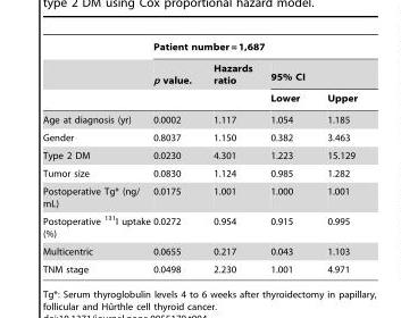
<table><thead><tr><td rowspan="3"></td><td colspan="4">Patient number = 1,687</td></tr><tr><td rowspan="2">p value.</td><td rowspan="2">Hazards ratio</td><td colspan="2">95% CI</td></tr><tr><td>Lower</td><td>Upper</td></tr></thead><tbody><tr><td>Age at diagnosis (yr)</td><td>0.0002</td><td>1.117</td><td>1.054</td><td>1.185</td></tr><tr><td>Gender</td><td>0.8037</td><td>1.150</td><td>0.382</td><td>3.463</td></tr><tr><td>Type 2 DM</td><td>0.0230</td><td>4.301</td><td>1.223</td><td>15.129</td></tr><tr><td>Tumor size</td><td>0.0830</td><td>1.124</td><td>0.985</td><td>1.282</td></tr><tr><td>Postoperative Tg* (ng/ mL)</td><td>0.0175</td><td>1.001</td><td>1.000</td><td>1.001</td></tr><tr><td>Postoperative <sup>131</sup>I uptake (%)</td><td>0.0272</td><td>0.954</td><td>0.915</td><td>0.995</td></tr><tr><td>Multicentric</td><td>0.0655</td><td>0.217</td><td>0.043</td><td>1.103</td></tr><tr><td>TNM stage</td><td>0.0498</td><td>2.230</td><td>1.001</td><td>4.971</td></tr></tbody></table>